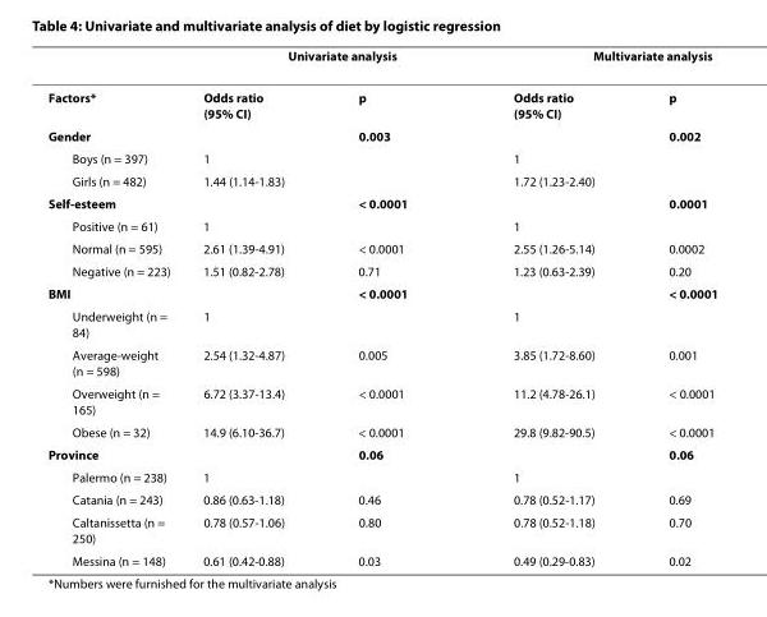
<table><thead><tr><td rowspan="2">Factors*</td><td colspan="2">Univariate analysis</td><td colspan="2">Multivariate analysis</td></tr><tr><td>Odds ratio (95% CI)</td><td>p</td><td>Odds ratio (95% CI)</td><td>p</td></tr></thead><tbody><tr><td>Gender</td><td></td><td>0.003</td><td></td><td>0.002</td></tr><tr><td>Boys (n = 397)</td><td>1</td><td></td><td>1</td><td></td></tr><tr><td>Girls (n = 482)</td><td>1.44 (1.14-1.83)</td><td></td><td>1.72 (1.23-2.40)</td><td></td></tr><tr><td>Self-esteem</td><td></td><td>&lt; 0.0001</td><td></td><td>0.0001</td></tr><tr><td>Positive (n = 61)</td><td>1</td><td></td><td>1</td><td></td></tr><tr><td>Normal (n = 595)</td><td>2.61 (1.39-4.91)</td><td>&lt; 0.0001</td><td>2.55 (1.26-5.14)</td><td>0.0002</td></tr><tr><td>Negative (n = 223)</td><td>1.51 (0.82-2.78)</td><td>0.71</td><td>1.23 (0.63-2.39)</td><td>0.20</td></tr><tr><td>BMI</td><td></td><td>&lt; 0.0001</td><td></td><td>&lt; 0.0001</td></tr><tr><td>Underweight (n = 84)</td><td>1</td><td></td><td>1</td><td></td></tr><tr><td>Average-weight (n = 598)</td><td>2.54 (1.32-4.87)</td><td>0.005</td><td>3.85 (1.72-8.60)</td><td>0.001</td></tr><tr><td>Overweight (n = 165)</td><td>6.72 (3.37-13.4)</td><td>&lt; 0.0001</td><td>11.2 (4.78-26.1)</td><td>&lt; 0.0001</td></tr><tr><td>Obese (n = 32)</td><td>14.9 (6.10-36.7)</td><td>&lt; 0.0001</td><td>29.8 (9.82-90.5)</td><td>&lt; 0.0001</td></tr><tr><td>Province</td><td></td><td>0.06</td><td></td><td>0.06</td></tr><tr><td>Palermo (n = 238)</td><td>1</td><td></td><td>1</td><td></td></tr><tr><td>Catania (n = 243)</td><td>0.86 (0.63-1.18)</td><td>0.46</td><td>0.78 (0.52-1.17)</td><td>0.69</td></tr><tr><td>Caltanissetta (n = 250)</td><td>0.78 (0.57-1.06)</td><td>0.80</td><td>0.78 (0.52-1.18)</td><td>0.70</td></tr><tr><td>Messina (n = 148)</td><td>0.61 (0.42-0.88)</td><td>0.03</td><td>0.49 (0.29-0.83)</td><td>0.02</td></tr></tbody></table>